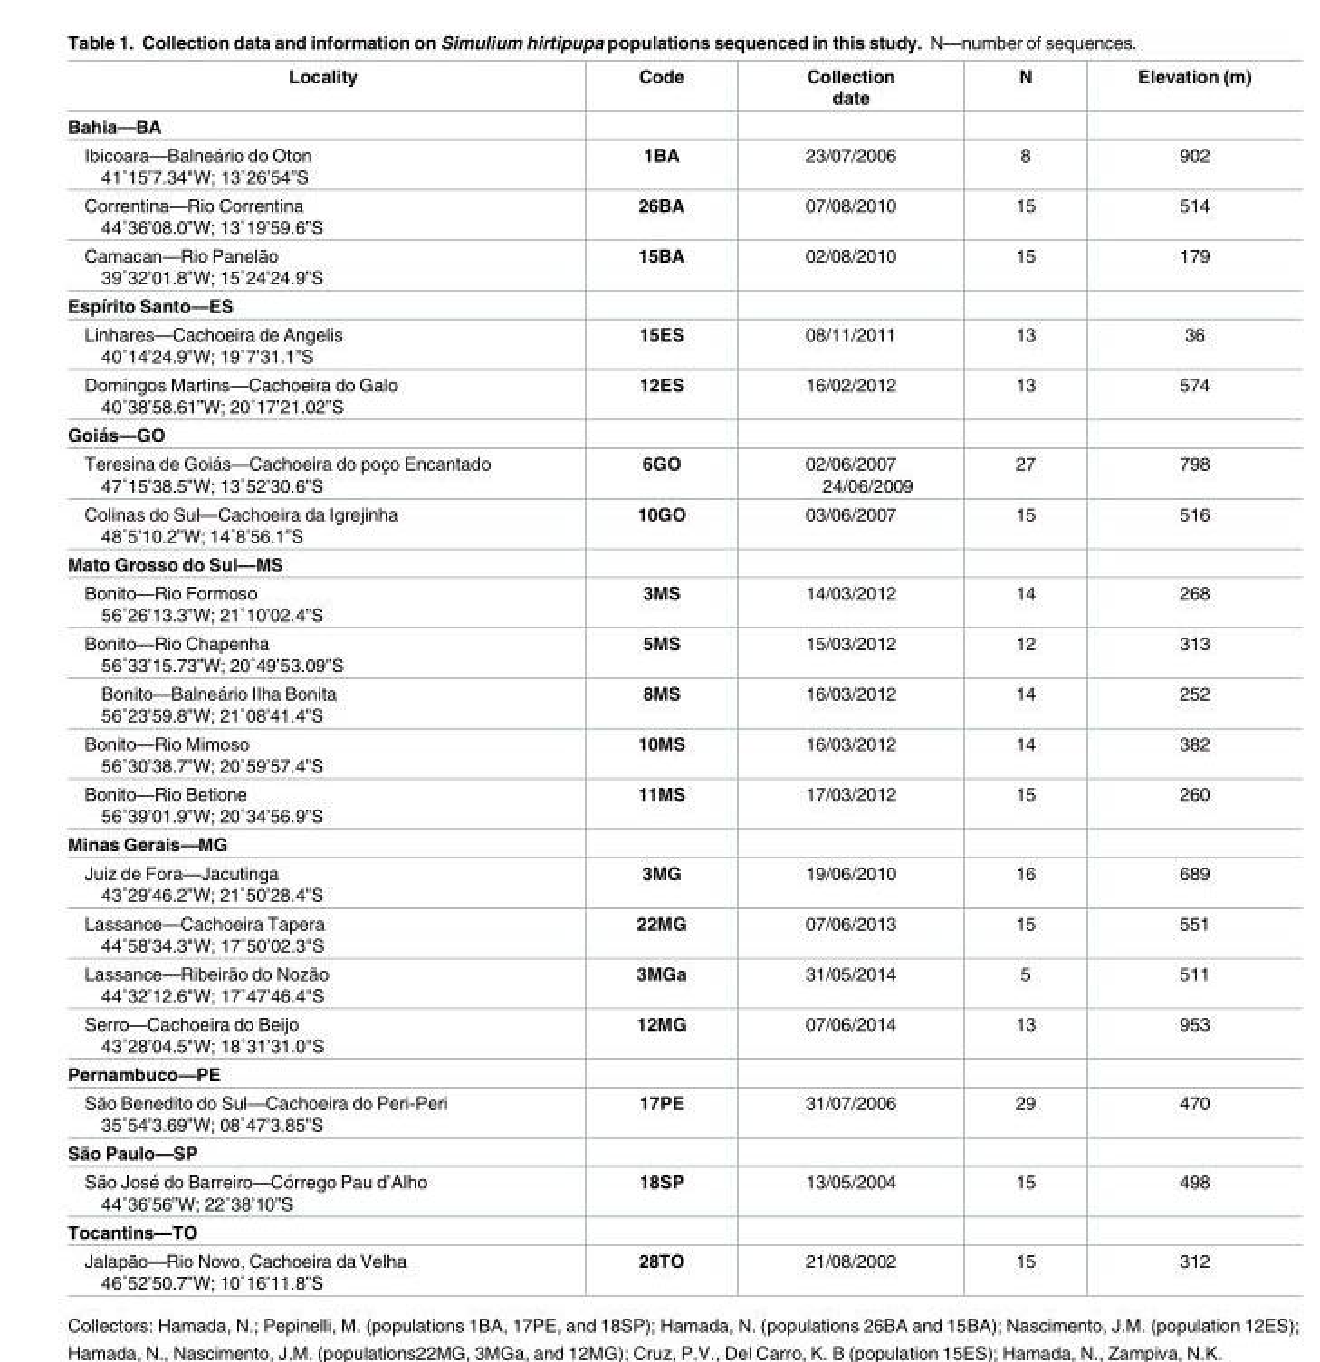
<table><thead><tr><td>Locality</td><td>Code</td><td>Collection date</td><td>N</td><td>Elevation (m)</td></tr></thead><tbody><tr><td colspan="5">Bahia—BA</td></tr><tr><td>Ibicoara—Balnea´rio do Oton 41˚15’7.34&quot;W; 13˚26’54”S</td><td>1BA</td><td>23/07/2006</td><td>8</td><td>902</td></tr><tr><td>Correntina—Rio Correntina 44˚36’08.0”W; 13˚19’59.6”S</td><td>26BA</td><td>07/08/2010</td><td>15</td><td>514</td></tr><tr><td>Camacan—Rio Panelão 39˚32’01.8”W; 15˚24’24.9”S</td><td>15BA</td><td>02/08/2010</td><td>15</td><td>179</td></tr><tr><td colspan="5">Espı´rito Santo—ES</td></tr><tr><td>Linhares—Cachoeira de Angelis 40˚14’24.9”W; 19˚7’31.1”S</td><td>15ES</td><td>08/11/2011</td><td>13</td><td>36</td></tr><tr><td>Domingos Martins—Cachoeira do Galo 40˚38’58.61”W; 20˚17’21.02”S</td><td>12ES</td><td>16/02/2012</td><td>13</td><td>574</td></tr><tr><td colspan="5">Goia´s—GO</td></tr><tr><td>Teresina de Goia´s—Cachoeira do poc¸o Encantado 47˚15’38.5”W; 13˚52’30.6”S</td><td>6GO</td><td>02/06/2007 24/06/2009</td><td>27</td><td>798</td></tr><tr><td>Colinas do Sul—Cachoeira da Igrejinha 48˚5’10.2”W; 14˚8’56.1”S</td><td>10GO</td><td>03/06/2007</td><td>15</td><td>516</td></tr><tr><td colspan="5">Mato Grosso do Sul—MS</td></tr><tr><td>Bonito—Rio Formoso 56˚26’13.3”W; 21˚10’02.4”S</td><td>3MS</td><td>14/03/2012</td><td>14</td><td>268</td></tr><tr><td>Bonito—Rio Chapenha 56˚33’15.73”W; 20˚49’53.09”S</td><td>5MS</td><td>15/03/2012</td><td>12</td><td>313</td></tr><tr><td>Bonito—Balnea´rio Ilha Bonita 56˚23’59.8”W; 21˚08’41.4”S</td><td>8MS</td><td>16/03/2012</td><td>14</td><td>252</td></tr><tr><td>Bonito—Rio Mimoso 56˚30’38.7”W; 20˚59’57.4”S</td><td>10MS</td><td>16/03/2012</td><td>14</td><td>382</td></tr><tr><td>Bonito—Rio Betione 56˚39’01.9”W; 20˚34’56.9”S</td><td>11MS</td><td>17/03/2012</td><td>15</td><td>260</td></tr><tr><td colspan="5">Minas Gerais—MG</td></tr><tr><td>Juiz de Fora—Jacutinga 43˚29’46.2”W; 21˚50’28.4”S</td><td>3MG</td><td>19/06/2010</td><td>16</td><td>689</td></tr><tr><td>Lassance—Cachoeira Tapera 44˚58’34.3&quot;W; 17˚50’02.3&quot;S</td><td>22MG</td><td>07/06/2013</td><td>15</td><td>551</td></tr><tr><td>Lassance—Ribeirão do Nozão 44˚32’12.6&quot;W; 17˚47’46.4&quot;S</td><td>3MGa</td><td>31/05/2014</td><td>5</td><td>511</td></tr><tr><td>Serro—Cachoeira do Beijo 43˚28’04.5&quot;W; 18˚31’31.0&quot;S</td><td>12MG</td><td>07/06/2014</td><td>13</td><td>953</td></tr><tr><td colspan="5">Pernambuco—PE</td></tr><tr><td>São Benedito do Sul—Cachoeira do Peri-Peri 35˚54’3.69”W; 08˚47’3.85”S</td><td>17PE</td><td>31/07/2006</td><td>29</td><td>470</td></tr><tr><td colspan="5">São Paulo—SP</td></tr><tr><td>São Jose´ do Barreiro—Co´rrego Pau d’Alho 44˚36’56”W; 22˚38’10”S</td><td>18SP</td><td>13/05/2004</td><td>15</td><td>498</td></tr><tr><td colspan="5">Tocantins—TO</td></tr><tr><td>Jalapão—Rio Novo, Cachoeira da Velha 46˚52’50.7”W; 10˚16’11.8”S</td><td>28TO</td><td>21/08/2002</td><td>15</td><td>312</td></tr></tbody></table>